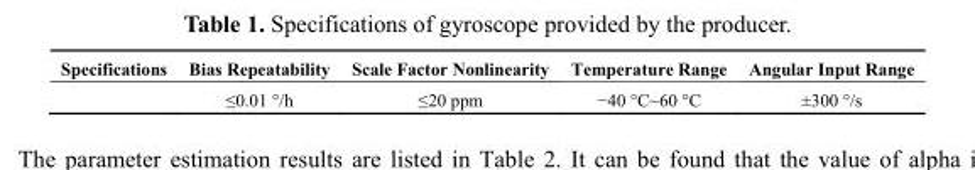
<table><thead><tr><td>Specifications</td><td>Bias Repeatability</td><td>Scale Factor Nonlinearity</td><td>Temperature Range</td><td>Angular Input Range</td></tr></thead><tbody><tr><td></td><td>≤0.01 °/h</td><td>≤20 ppm</td><td>−40 °C~60 °C</td><td>±300 °/s</td></tr></tbody></table>